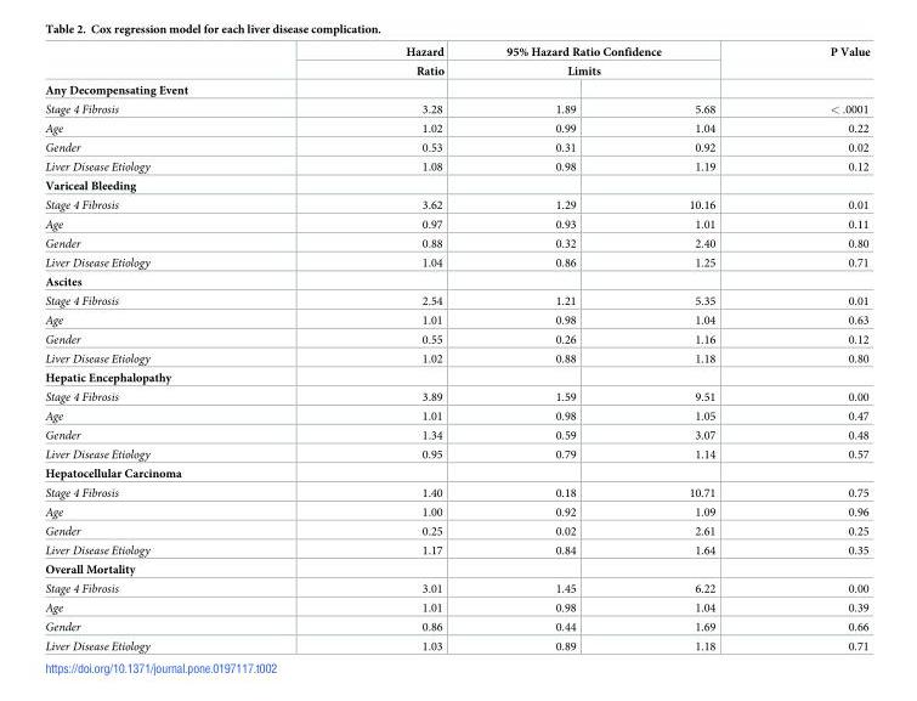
<table><thead><tr><td rowspan="3">Any Decompensating Event</td><td rowspan="3">Hazard Ratio</td><td rowspan="2" colspan="2">95% Hazard Ratio Confidence Limits</td><td rowspan="3">P Value</td></tr><tr></tr><tr><td></td><td></td></tr></thead><tbody><tr><td>Stage 4 Fibrosis</td><td>3.28</td><td>1.89</td><td>5.68</td><td>&lt; .0001</td></tr><tr><td>Age</td><td>1.02</td><td>0.99</td><td>1.04</td><td>0.22</td></tr><tr><td>Gender</td><td>0.53</td><td>0.31</td><td>0.92</td><td>0.02</td></tr><tr><td>Liver Disease Etiology</td><td>1.08</td><td>0.98</td><td>1.19</td><td>0.12</td></tr><tr><td colspan="5">Variceal Bleeding</td></tr><tr><td>Stage 4 Fibrosis</td><td>3.62</td><td>1.29</td><td>10.16</td><td>0.01</td></tr><tr><td>Age</td><td>0.97</td><td>0.93</td><td>1.01</td><td>0.11</td></tr><tr><td>Gender</td><td>0.88</td><td>0.32</td><td>2.40</td><td>0.80</td></tr><tr><td>Liver Disease Etiology</td><td>1.04</td><td>0.86</td><td>1.25</td><td>0.71</td></tr><tr><td colspan="5">Ascites</td></tr><tr><td>Stage 4 Fibrosis</td><td>2.54</td><td>1.21</td><td>5.35</td><td>0.01</td></tr><tr><td>Age</td><td>1.01</td><td>0.98</td><td>1.04</td><td>0.63</td></tr><tr><td>Gender</td><td>0.55</td><td>0.26</td><td>1.16</td><td>0.12</td></tr><tr><td>Liver Disease Etiology</td><td>1.02</td><td>0.88</td><td>1.18</td><td>0.80</td></tr><tr><td colspan="5">Hepatic Encephalopathy</td></tr><tr><td>Stage 4 Fibrosis</td><td>3.89</td><td>1.59</td><td>9.51</td><td>0.00</td></tr><tr><td>Age</td><td>1.01</td><td>0.98</td><td>1.05</td><td>0.47</td></tr><tr><td>Gender</td><td>1.34</td><td>0.59</td><td>3.07</td><td>0.48</td></tr><tr><td>Liver Disease Etiology</td><td>0.95</td><td>0.79</td><td>1.14</td><td>0.57</td></tr><tr><td colspan="5">Hepatocellular Carcinoma</td></tr><tr><td>Stage 4 Fibrosis</td><td>1.40</td><td>0.18</td><td>10.71</td><td>0.75</td></tr><tr><td>Age</td><td>1.00</td><td>0.92</td><td>1.09</td><td>0.96</td></tr><tr><td>Gender</td><td>0.25</td><td>0.02</td><td>2.61</td><td>0.25</td></tr><tr><td>Liver Disease Etiology</td><td>1.17</td><td>0.84</td><td>1.64</td><td>0.35</td></tr><tr><td colspan="5">Overall Mortality</td></tr><tr><td>Stage 4 Fibrosis</td><td>3.01</td><td>1.45</td><td>6.22</td><td>0.00</td></tr><tr><td>Age</td><td>1.01</td><td>0.98</td><td>1.04</td><td>0.39</td></tr><tr><td>Gender</td><td>0.86</td><td>0.44</td><td>1.69</td><td>0.66</td></tr><tr><td>Liver Disease Etiology</td><td>1.03</td><td>0.89</td><td>1.18</td><td>0.71</td></tr></tbody></table>